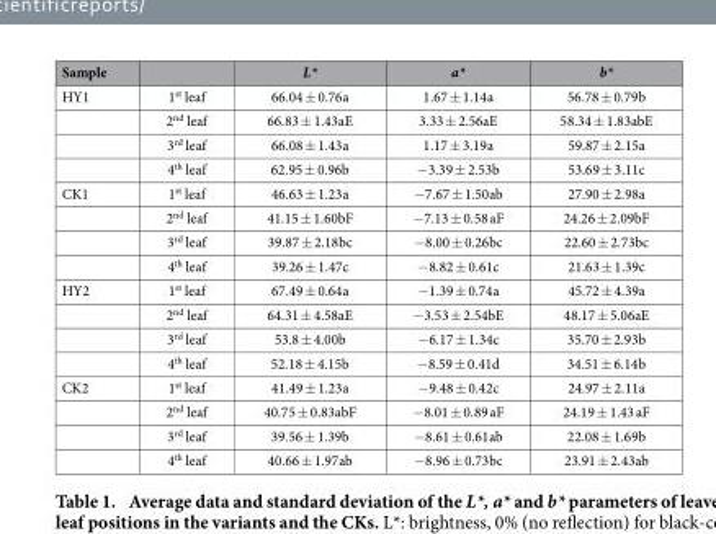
<table><thead><tr><td>Sample</td><td></td><td>L*</td><td>a*</td><td>b*</td></tr></thead><tbody><tr><td rowspan="4">HY1</td><td>1<sup>st</sup> leaf</td><td>66.04 ± 0.76a</td><td>1.67 ± 1.14a</td><td>56.78 ± 0.79b</td></tr><tr><td>2<sup>nd</sup> leaf</td><td>66.83 ± 1.43aE</td><td>3.33 ± 2.56aE</td><td>58.34 ± 1.83abE</td></tr><tr><td>3<sup>rd</sup> leaf</td><td>66.08 ± 1.43a</td><td>1.17 ± 3.19a</td><td>59.87 ± 2.15a</td></tr><tr><td>4<sup>th</sup> leaf</td><td>62.95 ± 0.96b</td><td>− 3.39 ± 2.53b</td><td>53.69 ± 3.11c</td></tr><tr><td rowspan="4">CK1</td><td>1<sup>st</sup> leaf</td><td>46.63 ± 1.23a</td><td>− 7.67 ± 1.50ab</td><td>27.90 ± 2.98a</td></tr><tr><td>2<sup>nd</sup> leaf</td><td>41.15 ± 1.60bF</td><td>− 7.13 ± 0.58 aF</td><td>24.26 ± 2.09bF</td></tr><tr><td>3<sup>rd</sup> leaf</td><td>39.87 ± 2.18bc</td><td>− 8.00 ± 0.26bc</td><td>22.60 ± 2.73bc</td></tr><tr><td>4<sup>th</sup> leaf</td><td>39.26 ± 1.47c</td><td>− 8.82 ± 0.61c</td><td>21.63 ± 1.39c</td></tr><tr><td rowspan="4">HY2</td><td>1<sup>st</sup> leaf</td><td>67.49 ± 0.64a</td><td>− 1.39 ± 0.74a</td><td>45.72 ± 4.39a</td></tr><tr><td>2<sup>nd</sup> leaf</td><td>64.31 ± 4.58aE</td><td>− 3.53 ± 2.54bE</td><td>48.17 ± 5.06aE</td></tr><tr><td>3<sup>rd</sup> leaf</td><td>53.8 ± 4.00b</td><td>− 6.17 ± 1.34c</td><td>35.70 ± 2.93b</td></tr><tr><td>4<sup>th</sup> leaf</td><td>52.18 ± 4.15b</td><td>− 8.59 ± 0.41d</td><td>34.51 ± 6.14b</td></tr><tr><td rowspan="4">CK2</td><td>1<sup>st</sup> leaf</td><td>41.49 ± 1.23a</td><td>− 9.48 ± 0.42c</td><td>24.97 ± 2.11a</td></tr><tr><td>2<sup>nd</sup> leaf</td><td>40.75 ± 0.83abF</td><td>− 8.01 ± 0.89 aF</td><td>24.19 ± 1.43 aF</td></tr><tr><td>3<sup>rd</sup> leaf</td><td>39.56 ± 1.39b</td><td>− 8.61 ± 0.61ab</td><td>22.08 ± 1.69b</td></tr><tr><td>4<sup>th</sup> leaf</td><td>40.66 ± 1.97ab</td><td>− 8.96 ± 0.73bc</td><td>23.91 ± 2.43ab</td></tr></tbody></table>